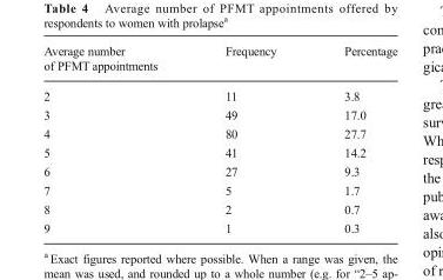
<table><thead><tr><td>Average number of PFMT appointments</td><td>Frequency</td><td>Percentage</td></tr></thead><tbody><tr><td>2</td><td>11</td><td>3.8</td></tr><tr><td>3</td><td>49</td><td>17.0</td></tr><tr><td>4</td><td>80</td><td>27.7</td></tr><tr><td>5</td><td>41</td><td>14.2</td></tr><tr><td>6</td><td>27</td><td>9.3</td></tr><tr><td>7</td><td>5</td><td>1.7</td></tr><tr><td>8</td><td>2</td><td>0.7</td></tr><tr><td>9</td><td>1</td><td>0.3</td></tr></tbody></table>